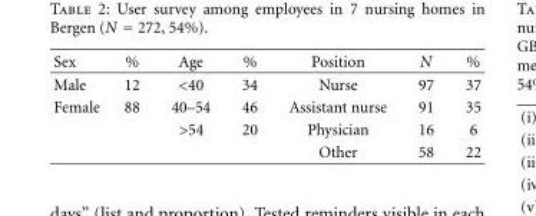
<table><thead><tr><td>Sex</td><td>%</td><td>Age</td><td>%</td><td>Position</td><td>N</td><td>%</td></tr></thead><tbody><tr><td>Male</td><td>12</td><td>&lt;40</td><td>34</td><td>Nurse</td><td>97</td><td>37</td></tr><tr><td rowspan="3">Female</td><td>88</td><td>40–54</td><td>46</td><td>Assistant nurse</td><td>91</td><td>35</td></tr><tr><td></td><td>&gt;54</td><td>20</td><td>Physician</td><td>16</td><td>6</td></tr><tr><td></td><td></td><td></td><td>Other</td><td>58</td><td>22</td></tr></tbody></table>